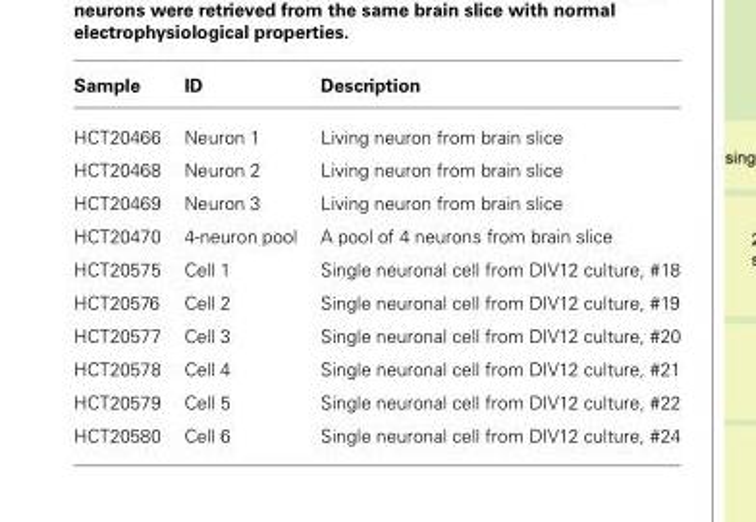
<table><thead><tr><td>Sample</td><td>ID</td><td>Description</td></tr></thead><tbody><tr><td>HCT20466</td><td>Neuron 1</td><td>Living neuron from brain slice</td></tr><tr><td>HCT20468</td><td>Neuron 2</td><td>Living neuron from brain slice</td></tr><tr><td>HCT20469</td><td>Neuron 3</td><td>Living neuron from brain slice</td></tr><tr><td>HCT20470</td><td>4-neuron pool</td><td>A pool of 4 neurons from brain slice</td></tr><tr><td>HCT20575</td><td>Cell 1</td><td>Single neuronal cell from DIV12 culture, #18</td></tr><tr><td>HCT20576</td><td>Cell 2</td><td>Single neuronal cell from DIV12 culture, #19</td></tr><tr><td>HCT20577</td><td>Cell 3</td><td>Single neuronal cell from DIV12 culture, #20</td></tr><tr><td>HCT20578</td><td>Cell 4</td><td>Single neuronal cell from DIV12 culture, #21</td></tr><tr><td>HCT20579</td><td>Cell 5</td><td>Single neuronal cell from DIV12 culture, #22</td></tr><tr><td>HCT20580</td><td>Cell 6</td><td>Single neuronal cell from DIV12 culture, #24</td></tr></tbody></table>